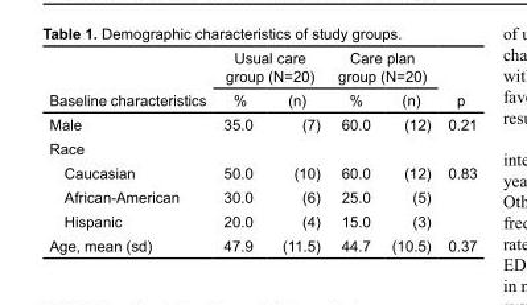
<table><thead><tr><td rowspan="2">Baseline characteristics</td><td colspan="2">Usual care group (N=20)</td><td colspan="2">Care plan group (N=20)</td><td rowspan="2">p</td></tr><tr><td>%</td><td>(n)</td><td>%</td><td>(n)</td></tr></thead><tbody><tr><td>Male</td><td>35.0</td><td>(7)</td><td>60.0</td><td>(12)</td><td>0.21</td></tr><tr><td colspan="6">Race</td></tr><tr><td>Caucasian</td><td>50.0</td><td>(10)</td><td>60.0</td><td>(12)</td><td>0.83</td></tr><tr><td>African-American</td><td>30.0</td><td>(6)</td><td>25.0</td><td>(5)</td><td></td></tr><tr><td>Hispanic</td><td>20.0</td><td>(4)</td><td>15.0</td><td>(3)</td><td></td></tr><tr><td>Age, mean (sd)</td><td>47.9</td><td>(11.5)</td><td>44.7</td><td>(10.5)</td><td>0.37</td></tr></tbody></table>